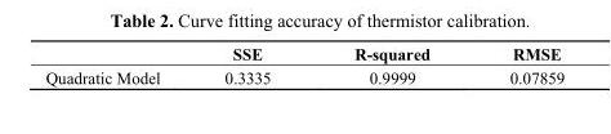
<table><thead><tr><td></td><td>SSE</td><td>R-squared</td><td>RMSE</td></tr></thead><tbody><tr><td>Quadratic Model</td><td>0.3335</td><td>0.9999</td><td>0.07859</td></tr></tbody></table>